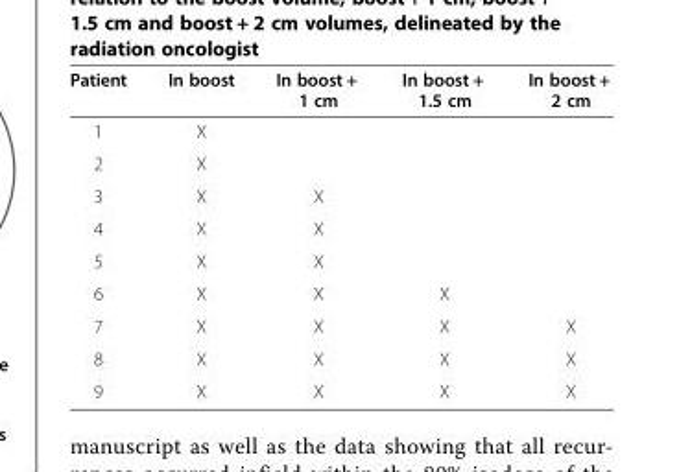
<table><thead><tr><td>Patient</td><td>In boost</td><td>In boost + 1 cm</td><td>In boost + 1.5 cm</td><td>In boost + 2 cm</td></tr></thead><tbody><tr><td>1</td><td>X</td><td></td><td></td><td></td></tr><tr><td>2</td><td>X</td><td></td><td></td><td></td></tr><tr><td>3</td><td>X</td><td>X</td><td></td><td></td></tr><tr><td>4</td><td>X</td><td>X</td><td></td><td></td></tr><tr><td>5</td><td>X</td><td>X</td><td></td><td></td></tr><tr><td>6</td><td>X</td><td>X</td><td>X</td><td></td></tr><tr><td>7</td><td>X</td><td>X</td><td>X</td><td>X</td></tr><tr><td>8</td><td>X</td><td>X</td><td>X</td><td>X</td></tr><tr><td>9</td><td>X</td><td>X</td><td>X</td><td>X</td></tr></tbody></table>